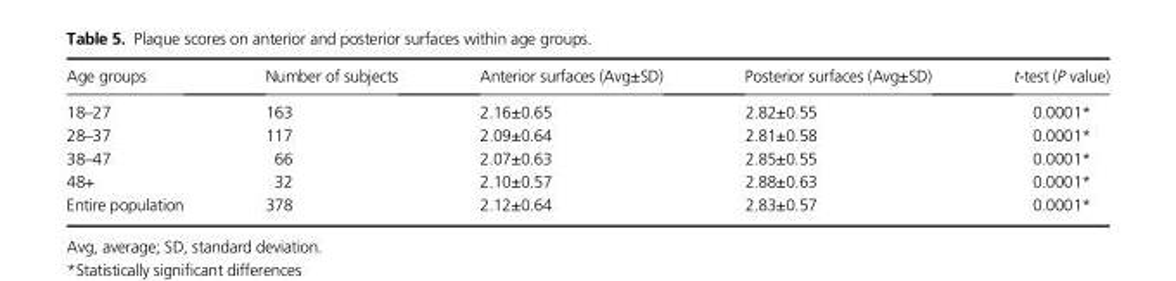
<table><thead><tr><td>Age groups</td><td>Number of subjects</td><td>Anterior surfaces (Avg±SD)</td><td>Posterior surfaces (Avg±SD)</td><td>t-test (P value)</td></tr></thead><tbody><tr><td>18–27</td><td>163</td><td>2.16±0.65</td><td>2.82±0.55</td><td>0.0001*</td></tr><tr><td>28–37</td><td>117</td><td>2.09±0.64</td><td>2.81±0.58</td><td>0.0001*</td></tr><tr><td>38–47</td><td>66</td><td>2.07±0.63</td><td>2.85±0.55</td><td>0.0001*</td></tr><tr><td>48+</td><td>32</td><td>2.10±0.57</td><td>2.88±0.63</td><td>0.0001*</td></tr><tr><td>Entire population</td><td>378</td><td>2.12±0.64</td><td>2.83±0.57</td><td>0.0001*</td></tr></tbody></table>